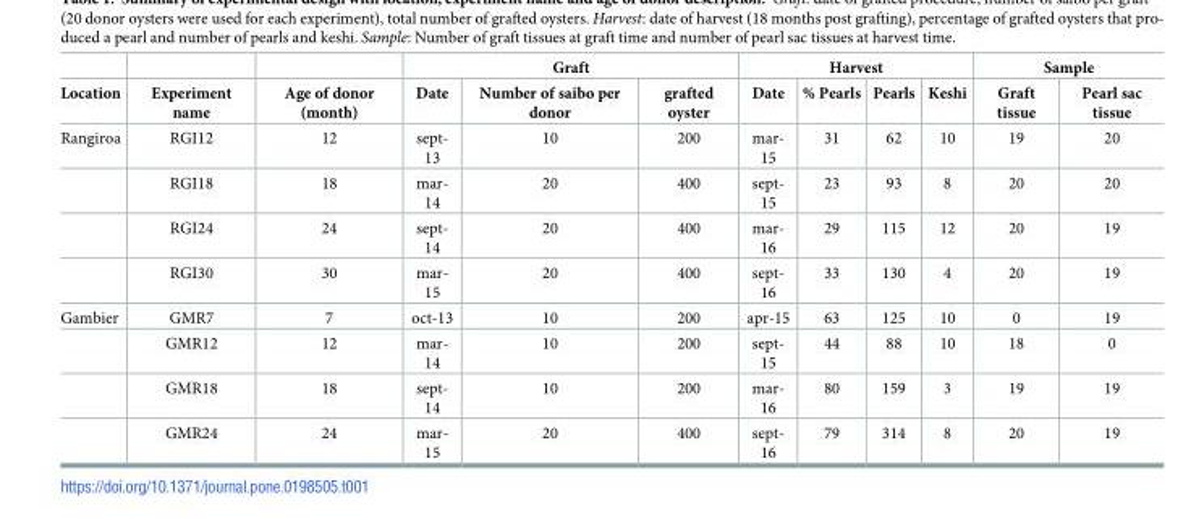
<table><thead><tr><td rowspan="2">Location</td><td rowspan="2">Experiment name</td><td rowspan="2">Age of donor (month)</td><td colspan="3">Graft</td><td colspan="4">Harvest</td><td colspan="2">Sample</td></tr><tr><td>Date</td><td>Number of saibo per donor</td><td>grafted oyster</td><td>Date</td><td>% Pearls</td><td>Pearls</td><td>Keshi</td><td>Graft tissue</td><td>Pearl sac tissue</td></tr></thead><tbody><tr><td rowspan="4">Rangiroa</td><td>RGI12</td><td>12</td><td>sept- 13</td><td>10</td><td>200</td><td>mar- 15</td><td>31</td><td>62</td><td>10</td><td>19</td><td>20</td></tr><tr><td>RGI18</td><td>18</td><td>mar- 14</td><td>20</td><td>400</td><td>sept- 15</td><td>23</td><td>93</td><td>8</td><td>20</td><td>20</td></tr><tr><td>RGI24</td><td>24</td><td>sept- 14</td><td>20</td><td>400</td><td>mar- 16</td><td>29</td><td>115</td><td>12</td><td>20</td><td>19</td></tr><tr><td>RGI30</td><td>30</td><td>mar- 15</td><td>20</td><td>400</td><td>sept- 16</td><td>33</td><td>130</td><td>4</td><td>20</td><td>19</td></tr><tr><td rowspan="4">Gambier</td><td>GMR7</td><td>7</td><td>oct-13</td><td>10</td><td>200</td><td>apr-15</td><td>63</td><td>125</td><td>10</td><td>0</td><td>19</td></tr><tr><td>GMR12</td><td>12</td><td>mar- 14</td><td>10</td><td>200</td><td>sept- 15</td><td>44</td><td>88</td><td>10</td><td>18</td><td>0</td></tr><tr><td>GMR18</td><td>18</td><td>sept- 14</td><td>10</td><td>200</td><td>mar- 16</td><td>80</td><td>159</td><td>3</td><td>19</td><td>19</td></tr><tr><td>GMR24</td><td>24</td><td>mar- 15</td><td>20</td><td>400</td><td>sept- 16</td><td>79</td><td>314</td><td>8</td><td>20</td><td>19</td></tr></tbody></table>